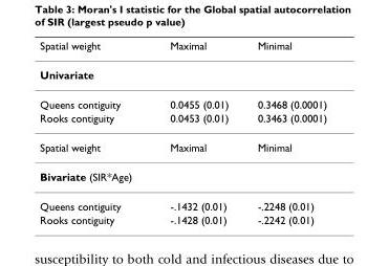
<table><thead><tr><td>Spatial weight</td><td>Maximal</td><td>Minimal</td></tr></thead><tbody><tr><td colspan="3">Univariate</td></tr><tr><td>Queens contiguity</td><td>0.0455 (0.01)</td><td>0.3468 (0.0001)</td></tr><tr><td>Rooks contiguity</td><td>0.0453 (0.01)</td><td>0.3463 (0.0001)</td></tr><tr><td>Spatial weight</td><td>Maximal</td><td>Minimal</td></tr><tr><td colspan="3">Bivariate (SIR*Age)</td></tr><tr><td>Queens contiguity</td><td>-.1432 (0.01)</td><td>-.2248 (0.01)</td></tr><tr><td>Rooks contiguity</td><td>-.1428 (0.01)</td><td>-.2242 (0.01)</td></tr></tbody></table>